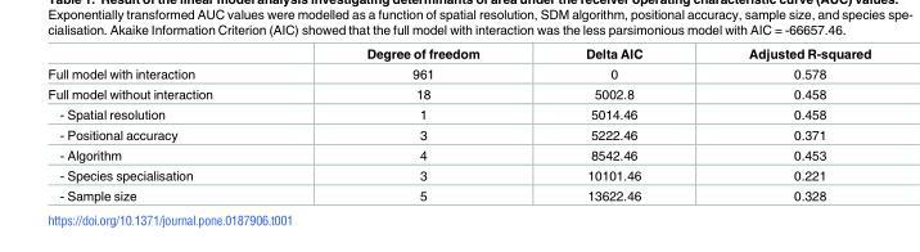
<table><thead><tr><td></td><td>Degree of freedom</td><td>Delta AIC</td><td>Adjusted R-squared</td></tr></thead><tbody><tr><td>Full model with interaction</td><td>961</td><td>0</td><td>0.578</td></tr><tr><td>Full model without interaction</td><td>18</td><td>5002.8</td><td>0.458</td></tr><tr><td>- Spatial resolution</td><td>1</td><td>5014.46</td><td>0.458</td></tr><tr><td>- Positional accuracy</td><td>3</td><td>5222.46</td><td>0.371</td></tr><tr><td>- Algorithm</td><td>4</td><td>8542.46</td><td>0.453</td></tr><tr><td>- Species specialisation</td><td>3</td><td>10101.46</td><td>0.221</td></tr><tr><td>- Sample size</td><td>5</td><td>13622.46</td><td>0.328</td></tr></tbody></table>